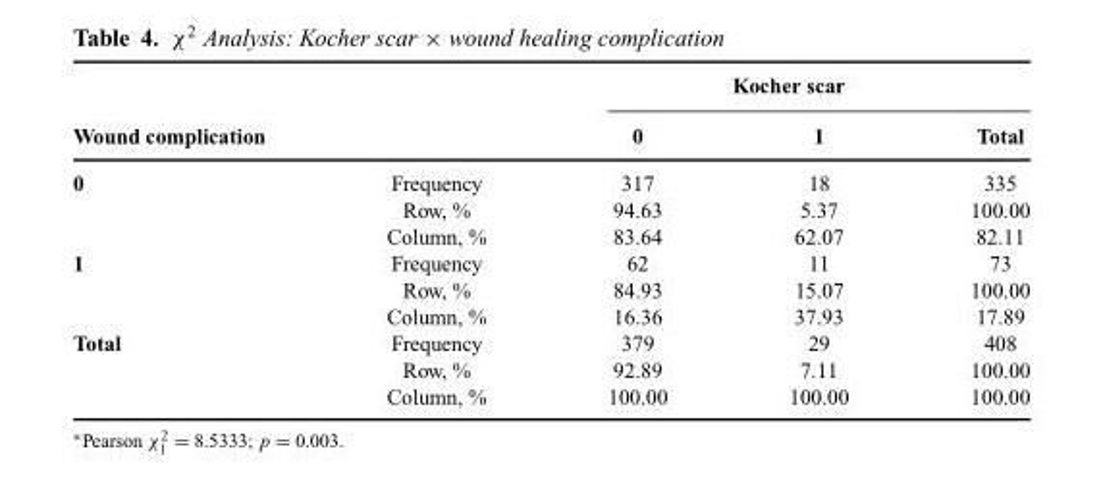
<table><thead><tr><td rowspan="2">Wound complication</td><td rowspan="2"></td><td colspan="3">Kocher scar</td></tr><tr><td>0</td><td>1</td><td>Total</td></tr></thead><tbody><tr><td rowspan="3">0</td><td>Frequency</td><td>317</td><td>18</td><td>335</td></tr><tr><td>Row, %</td><td>94.63</td><td>5.37</td><td>100.00</td></tr><tr><td>Column, %</td><td>83.64</td><td>62.07</td><td>82.11</td></tr><tr><td rowspan="3">1</td><td>Frequency</td><td>62</td><td>11</td><td>73</td></tr><tr><td>Row, %</td><td>84.93</td><td>15.07</td><td>100.00</td></tr><tr><td>Column, %</td><td>16.36</td><td>37.93</td><td>17.89</td></tr><tr><td rowspan="3">Total</td><td>Frequency</td><td>379</td><td>29</td><td>408</td></tr><tr><td>Row, %</td><td>92.89</td><td>7.11</td><td>100.00</td></tr><tr><td>Column, %</td><td>100.00</td><td>100.00</td><td>100.00</td></tr></tbody></table>